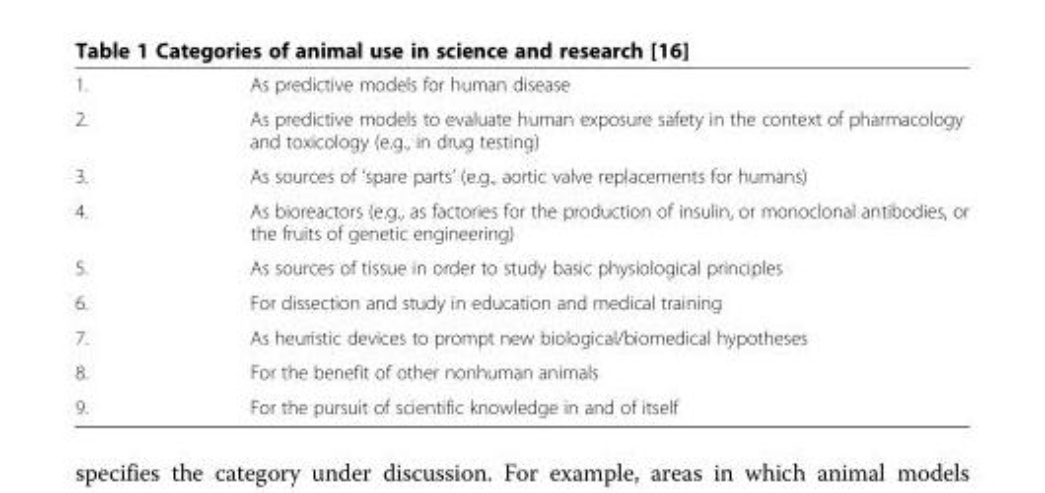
<table><tbody><tr><td>1.</td><td>As predictive models for human disease</td></tr><tr><td>2.</td><td>As predictive models to evaluate human exposure safety in the context of pharmacology and toxicology (e.g., in drug testing)</td></tr><tr><td>3.</td><td>As sources of ‘spare parts’ (e.g., aortic valve replacements for humans)</td></tr><tr><td>4.</td><td>As bioreactors (e.g., as factories for the production of insulin, or monoclonal antibodies, or the fruits of genetic engineering)</td></tr><tr><td>5.</td><td>As sources of tissue in order to study basic physiological principles</td></tr><tr><td>6.</td><td>For dissection and study in education and medical training</td></tr><tr><td>7.</td><td>As heuristic devices to prompt new biological/biomedical hypotheses</td></tr><tr><td>8.</td><td>For the benefit of other nonhuman animals</td></tr><tr><td>9.</td><td>For the pursuit of scientific knowledge in and of itself</td></tr></tbody></table>